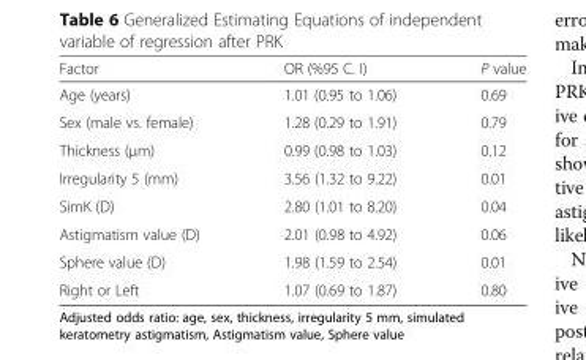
<table><thead><tr><td>Factor</td><td>OR (%95 C. I)</td><td>P value</td></tr></thead><tbody><tr><td>Age (years)</td><td>1.01 (0.95 to 1.06)</td><td>0.69</td></tr><tr><td>Sex (male vs. female)</td><td>1.28 (0.29 to 1.91)</td><td>0.79</td></tr><tr><td>Thickness (μm)</td><td>0.99 (0.98 to 1.03)</td><td>0.12</td></tr><tr><td>Irregularity 5 (mm)</td><td>3.56 (1.32 to 9.22)</td><td>0.01</td></tr><tr><td>SimK (D)</td><td>2.80 (1.01 to 8.20)</td><td>0.04</td></tr><tr><td>Astigmatism value (D)</td><td>2.01 (0.98 to 4.92)</td><td>0.06</td></tr><tr><td>Sphere value (D)</td><td>1.98 (1.59 to 2.54)</td><td>0.01</td></tr><tr><td>Right or Left</td><td>1.07 (0.69 to 1.87)</td><td>0.80</td></tr></tbody></table>